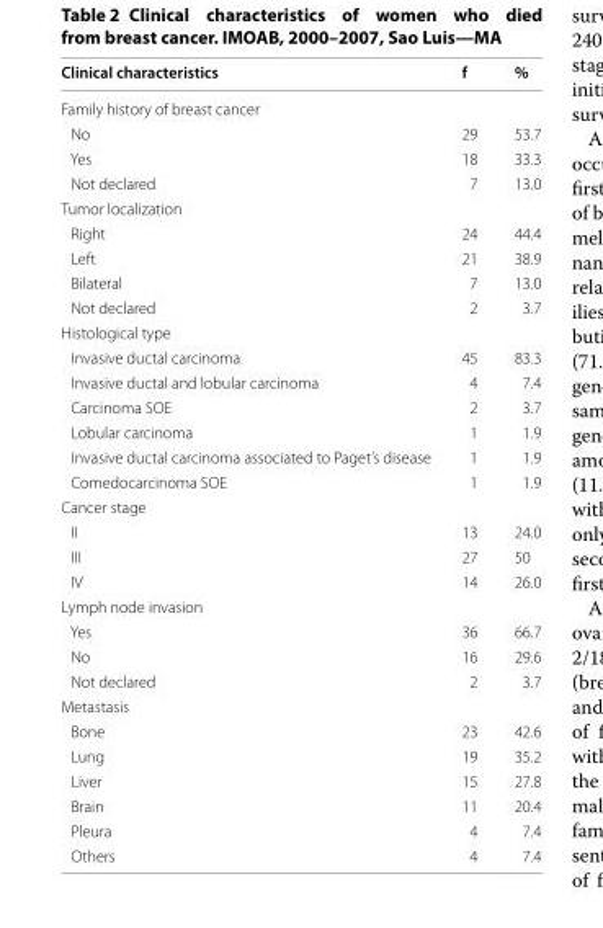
<table><thead><tr><td>Clinical characteristics</td><td>f</td><td>%</td></tr></thead><tbody><tr><td colspan="3">Family history of breast cancer</td></tr><tr><td>No</td><td>29</td><td>53.7</td></tr><tr><td>Yes</td><td>18</td><td>33.3</td></tr><tr><td>Not declared</td><td>7</td><td>13.0</td></tr><tr><td colspan="3">Tumor localization</td></tr><tr><td>Right</td><td>24</td><td>44.4</td></tr><tr><td>Left</td><td>21</td><td>38.9</td></tr><tr><td>Bilateral</td><td>7</td><td>13.0</td></tr><tr><td>Not declared</td><td>2</td><td>3.7</td></tr><tr><td colspan="3">Histological type</td></tr><tr><td>Invasive ductal carcinoma</td><td>45</td><td>83.3</td></tr><tr><td>Invasive ductal and lobular carcinoma</td><td>4</td><td>7.4</td></tr><tr><td>Carcinoma SOE</td><td>2</td><td>3.7</td></tr><tr><td>Lobular carcinoma</td><td>1</td><td>1.9</td></tr><tr><td>Invasive ductal carcinoma associated to Paget’s disease</td><td>1</td><td>1.9</td></tr><tr><td>Comedocarcinoma SOE</td><td>1</td><td>1.9</td></tr><tr><td colspan="3">Cancer stage</td></tr><tr><td>II</td><td>13</td><td>24.0</td></tr><tr><td>III</td><td>27</td><td>50</td></tr><tr><td>IV</td><td>14</td><td>26.0</td></tr><tr><td colspan="3">Lymph node invasion</td></tr><tr><td>Yes</td><td>36</td><td>66.7</td></tr><tr><td>No</td><td>16</td><td>29.6</td></tr><tr><td>Not declared</td><td>2</td><td>3.7</td></tr><tr><td colspan="3">Metastasis</td></tr><tr><td>Bone</td><td>23</td><td>42.6</td></tr><tr><td>Lung</td><td>19</td><td>35.2</td></tr><tr><td>Liver</td><td>15</td><td>27.8</td></tr><tr><td>Brain</td><td>11</td><td>20.4</td></tr><tr><td>Pleura</td><td>4</td><td>7.4</td></tr><tr><td>Others</td><td>4</td><td>7.4</td></tr></tbody></table>